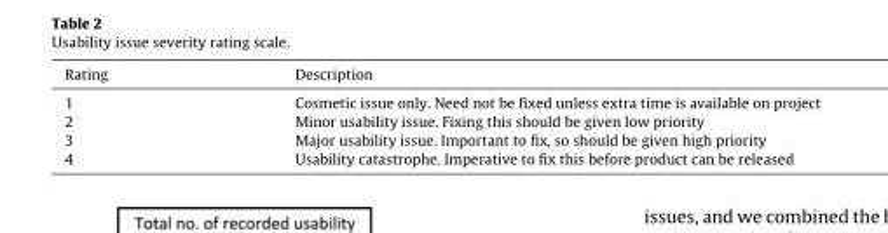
<table><thead><tr><td>Rating</td><td>Description</td></tr></thead><tbody><tr><td>1</td><td>Cosmetic issue only. Need not be fixed unless extra time is available on project</td></tr><tr><td>2</td><td>Minor usability issue. Fixing this should be given low priority</td></tr><tr><td>3</td><td>Major usability issue. Important to fix, so should be given high priority</td></tr><tr><td>4</td><td>Usability catastrophe. Imperative to fix this before product can be released</td></tr></tbody></table>